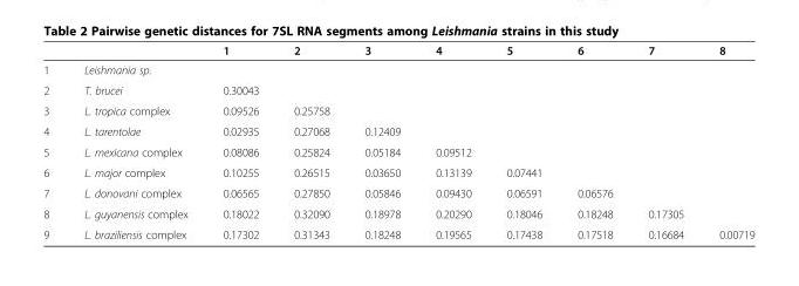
<table><thead><tr><td></td><td></td><td>1</td><td>2</td><td>3</td><td>4</td><td>5</td><td>6</td><td>7</td><td>8</td></tr></thead><tbody><tr><td>1</td><td>Leishmania sp.</td><td></td><td></td><td></td><td></td><td></td><td></td><td></td><td></td></tr><tr><td>2</td><td>T. brucei</td><td>0.30043</td><td></td><td></td><td></td><td></td><td></td><td></td><td></td></tr><tr><td>3</td><td>L. tropica complex</td><td>0.09526</td><td>0.25758</td><td></td><td></td><td></td><td></td><td></td><td></td></tr><tr><td>4</td><td>L. tarentolae</td><td>0.02935</td><td>0.27068</td><td>0.12409</td><td></td><td></td><td></td><td></td><td></td></tr><tr><td>5</td><td>L. mexicana complex</td><td>0.08086</td><td>0.25824</td><td>0.05184</td><td>0.09512</td><td></td><td></td><td></td><td></td></tr><tr><td>6</td><td>L. major complex</td><td>0.10255</td><td>0.26515</td><td>0.03650</td><td>0.13139</td><td>0.07441</td><td></td><td></td><td></td></tr><tr><td>7</td><td>L. donovani complex</td><td>0.06565</td><td>0.27850</td><td>0.05846</td><td>0.09430</td><td>0.06591</td><td>0.06576</td><td></td><td></td></tr><tr><td>8</td><td>L. guyanensis complex</td><td>0.18022</td><td>0.32090</td><td>0.18978</td><td>0.20290</td><td>0.18046</td><td>0.18248</td><td>0.17305</td><td></td></tr><tr><td>9</td><td>L. braziliensis complex</td><td>0.17302</td><td>0.31343</td><td>0.18248</td><td>0.19565</td><td>0.17438</td><td>0.17518</td><td>0.16684</td><td>0.00719</td></tr></tbody></table>